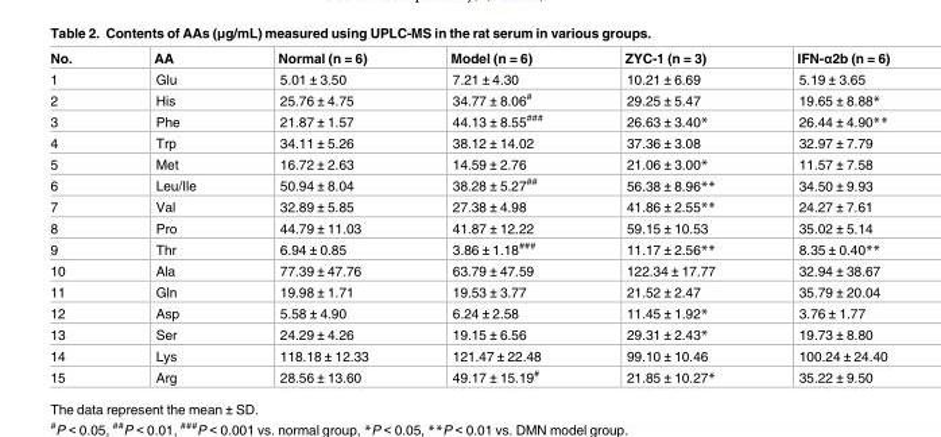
<table><thead><tr><td>No.</td><td>AA</td><td>Normal (n = 6)</td><td>Model (n = 6)</td><td>ZYC-1 (n = 3)</td><td>IFN-α2b (n = 6)</td></tr></thead><tbody><tr><td>1</td><td>Glu</td><td>5.01 ± 3.50</td><td>7.21 ± 4.30</td><td>10.21 ± 6.69</td><td>5.19 ± 3.65</td></tr><tr><td>2</td><td>His</td><td>25.76 ± 4.75</td><td>34.77 ± 8.06<sup>#</sup></td><td>29.25 ± 5.47</td><td>19.65 ± 8.88*</td></tr><tr><td>3</td><td>Phe</td><td>21.87 ± 1.57</td><td>44.13 ± 8.55<sup>###</sup></td><td>26.63 ± 3.40*</td><td>26.44 ± 4.90**</td></tr><tr><td>4</td><td>Trp</td><td>34.11 ± 5.26</td><td>38.12 ± 14.02</td><td>37.36 ± 3.08</td><td>32.97 ± 7.79</td></tr><tr><td>5</td><td>Met</td><td>16.72 ± 2.63</td><td>14.59 ± 2.76</td><td>21.06 ± 3.00*</td><td>11.57 ± 7.58</td></tr><tr><td>6</td><td>Leu/Ile</td><td>50.94 ± 8.04</td><td>38.28 ± 5.27<sup>##</sup></td><td>56.38 ± 8.96**</td><td>34.50 ± 9.93</td></tr><tr><td>7</td><td>Val</td><td>32.89 ± 5.85</td><td>27.38 ± 4.98</td><td>41.86 ± 2.55**</td><td>24.27 ± 7.61</td></tr><tr><td>8</td><td>Pro</td><td>44.79 ± 11.03</td><td>41.87 ± 12.22</td><td>59.15 ± 10.53</td><td>35.02 ± 5.14</td></tr><tr><td>9</td><td>Thr</td><td>6.94 ± 0.85</td><td>3.86 ± 1.18<sup>###</sup></td><td>11.17 ± 2.56**</td><td>8.35 ± 0.40**</td></tr><tr><td>10</td><td>Ala</td><td>77.39 ± 47.76</td><td>63.79 ± 47.59</td><td>122.34 ± 17.77</td><td>32.94 ± 38.67</td></tr><tr><td>11</td><td>Gln</td><td>19.98 ± 1.71</td><td>19.53 ± 3.77</td><td>21.52 ± 2.47</td><td>35.79 ± 20.04</td></tr><tr><td>12</td><td>Asp</td><td>5.58 ± 4.90</td><td>6.24 ± 2.58</td><td>11.45 ± 1.92*</td><td>3.76 ± 1.77</td></tr><tr><td>13</td><td>Ser</td><td>24.29 ± 4.26</td><td>19.15 ± 6.56</td><td>29.31 ± 2.43*</td><td>19.73 ± 8.80</td></tr><tr><td>14</td><td>Lys</td><td>118.18 ± 12.33</td><td>121.47 ± 22.48</td><td>99.10 ± 10.46</td><td>100.24 ± 24.40</td></tr><tr><td>15</td><td>Arg</td><td>28.56 ± 13.60</td><td>49.17 ± 15.19<sup>#</sup></td><td>21.85 ± 10.27*</td><td>35.22 ± 9.50</td></tr></tbody></table>